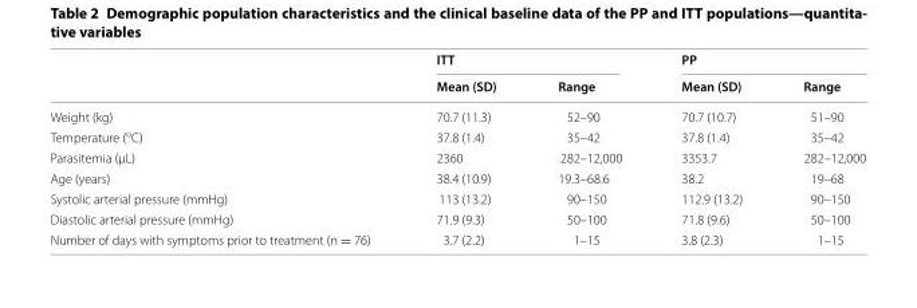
<table><thead><tr><td rowspan="2"></td><td colspan="2">ITT</td><td colspan="2">PP</td></tr><tr><td>Mean (SD)</td><td>Range</td><td>Mean (SD)</td><td>Range</td></tr></thead><tbody><tr><td>Weight (kg)</td><td>70.7 (11.3)</td><td>52–90</td><td>70.7 (10.7)</td><td>51–90</td></tr><tr><td>Temperature (<sup>o</sup>C)</td><td>37.8 (1.4)</td><td>35–42</td><td>37.8 (1.4)</td><td>35–42</td></tr><tr><td>Parasitemia (μL)</td><td>2360</td><td>282–12,000</td><td>3353.7</td><td>282–12,000</td></tr><tr><td>Age (years)</td><td>38.4 (10.9)</td><td>19.3–68.6</td><td>38.2</td><td>19–68</td></tr><tr><td>Systolic arterial pressure (mmHg)</td><td>113 (13.2)</td><td>90–150</td><td>112.9 (13.2)</td><td>90–150</td></tr><tr><td>Diastolic arterial pressure (mmHg)</td><td>71.9 (9.3)</td><td>50–100</td><td>71.8 (9.6)</td><td>50–100</td></tr><tr><td>Number of days with symptoms prior to treatment (n = 76)</td><td>3.7 (2.2)</td><td>1–15</td><td>3.8 (2.3)</td><td>1–15</td></tr></tbody></table>